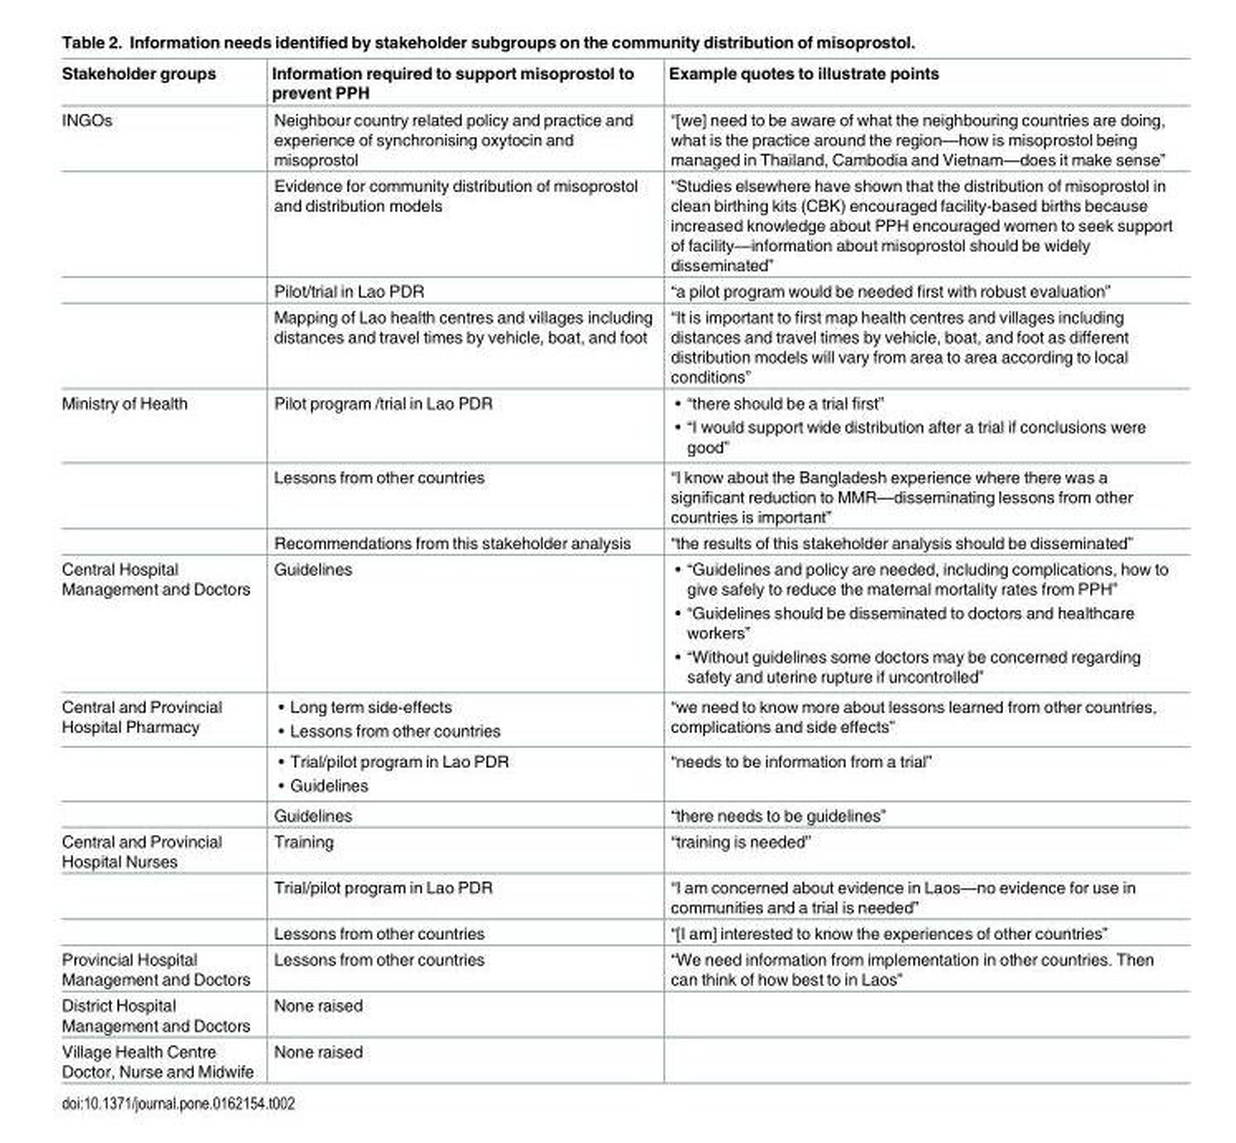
<table><thead><tr><td>Stakeholder groups</td><td>Information required to support misoprostol to prevent PPH</td><td>Example quotes to illustrate points</td></tr></thead><tbody><tr><td rowspan="4">INGOs</td><td>Neighbour country related policy and practice and experience of synchronising oxytocin and misoprostol</td><td>“[we] need to be aware of what the neighbouring countries are doing, what is the practice around the region—how is misoprostol being managed in Thailand, Cambodia and Vietnam—does it make sense”</td></tr><tr><td>Evidence for community distribution of misoprostol and distribution models</td><td>“Studies elsewhere have shown that the distribution of misoprostol in clean birthing kits (CBK) encouraged facility-based births because increased knowledge about PPH encouraged women to seek support of facility—information about misoprostol should be widely disseminated”</td></tr><tr><td>Pilot/trial in Lao PDR</td><td>“a pilot program would be needed first with robust evaluation”</td></tr><tr><td>Mapping of Lao health centres and villages including distances and travel times by vehicle, boat, and foot</td><td>“It is important to first map health centres and villages including distances and travel times by vehicle, boat, and foot as different distribution models will vary from area to area according to local conditions”</td></tr><tr><td rowspan="3">Ministry of Health</td><td>Pilot program /trial in Lao PDR</td><td>• “there should be a trial first” • “I would support wide distribution after a trial if conclusions were good”</td></tr><tr><td>Lessons from other countries</td><td>“I know about the Bangladesh experience where there was a significant reduction to MMR—disseminating lessons from other countries is important”</td></tr><tr><td>Recommendations from this stakeholder analysis</td><td>“the results of this stakeholder analysis should be disseminated”</td></tr><tr><td>Central Hospital Management and Doctors</td><td>Guidelines</td><td>• “Guidelines and policy are needed, including complications, how to give safely to reduce the maternal mortality rates from PPH” • “Guidelines should be disseminated to doctors and healthcare workers” • “Without guidelines some doctors may be concerned regarding safety and uterine rupture if uncontrolled”</td></tr><tr><td rowspan="3">Central and Provincial Hospital Pharmacy</td><td>• Long term side-effects • Lessons from other countries</td><td>“we need to know more about lessons learned from other countries, complications and side effects”</td></tr><tr><td>• Trial/pilot program in Lao PDR • Guidelines</td><td>“needs to be information from a trial”</td></tr><tr><td>Guidelines</td><td>“there needs to be guidelines”</td></tr><tr><td rowspan="3">Central and Provincial Hospital Nurses</td><td>Training</td><td>“training is needed”</td></tr><tr><td>Trial/pilot program in Lao PDR</td><td>“I am concerned about evidence in Laos—no evidence for use in communities and a trial is needed”</td></tr><tr><td>Lessons from other countries</td><td>“[I am] interested to know the experiences of other countries”</td></tr><tr><td>Provincial Hospital Management and Doctors</td><td>Lessons from other countries</td><td>“We need information from implementation in other countries. Then can think of how best to in Laos”</td></tr><tr><td>District Hospital Management and Doctors</td><td>None raised</td><td></td></tr><tr><td>Village Health Centre Doctor, Nurse and Midwife</td><td>None raised</td><td></td></tr></tbody></table>